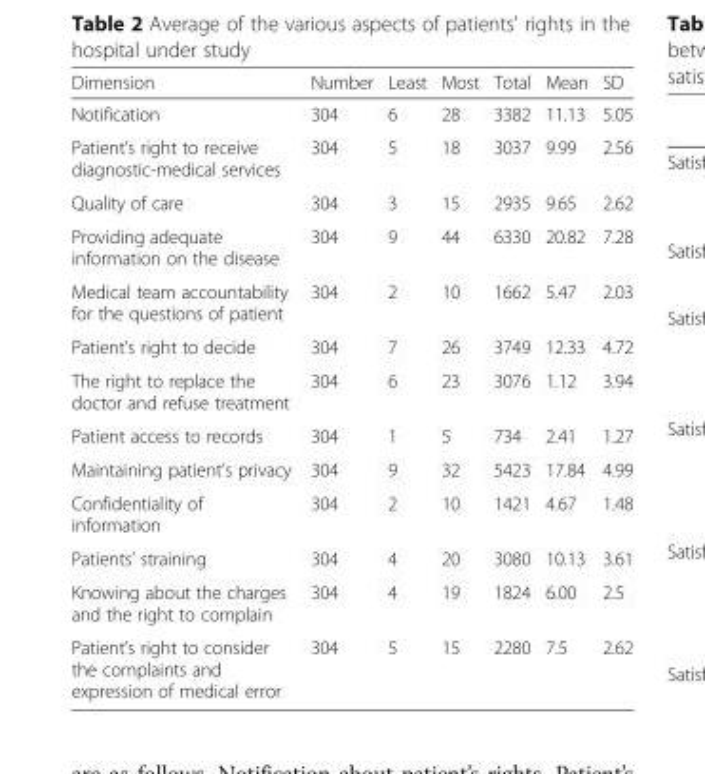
<table><thead><tr><td>Dimension</td><td>Number</td><td>Least</td><td>Most</td><td>Total</td><td>Mean</td><td>SD</td></tr></thead><tbody><tr><td>Notification</td><td>304</td><td>6</td><td>28</td><td>3382</td><td>11.13</td><td>5.05</td></tr><tr><td>Patient’s right to receive diagnostic-medical services</td><td>304</td><td>5</td><td>18</td><td>3037</td><td>9.99</td><td>2.56</td></tr><tr><td>Quality of care</td><td>304</td><td>3</td><td>15</td><td>2935</td><td>9.65</td><td>2.62</td></tr><tr><td>Providing adequate information on the disease</td><td>304</td><td>9</td><td>44</td><td>6330</td><td>20.82</td><td>7.28</td></tr><tr><td>Medical team accountability for the questions of patient</td><td>304</td><td>2</td><td>10</td><td>1662</td><td>5.47</td><td>2.03</td></tr><tr><td>Patient’s right to decide</td><td>304</td><td>7</td><td>26</td><td>3749</td><td>12.33</td><td>4.72</td></tr><tr><td>The right to replace the doctor and refuse treatment</td><td>304</td><td>6</td><td>23</td><td>3076</td><td>1.12</td><td>3.94</td></tr><tr><td>Patient access to records</td><td>304</td><td>1</td><td>5</td><td>734</td><td>2.41</td><td>1.27</td></tr><tr><td>Maintaining patient’s privacy</td><td>304</td><td>9</td><td>32</td><td>5423</td><td>17.84</td><td>4.99</td></tr><tr><td>Confidentiality of information</td><td>304</td><td>2</td><td>10</td><td>1421</td><td>4.67</td><td>1.48</td></tr><tr><td>Patients’ straining</td><td>304</td><td>4</td><td>20</td><td>3080</td><td>10.13</td><td>3.61</td></tr><tr><td>Knowing about the charges and the right to complain</td><td>304</td><td>4</td><td>19</td><td>1824</td><td>6.00</td><td>2.5</td></tr><tr><td>Patient’s right to consider the complaints and expression of medical error</td><td>304</td><td>5</td><td>15</td><td>2280</td><td>7.5</td><td>2.62</td></tr></tbody></table>